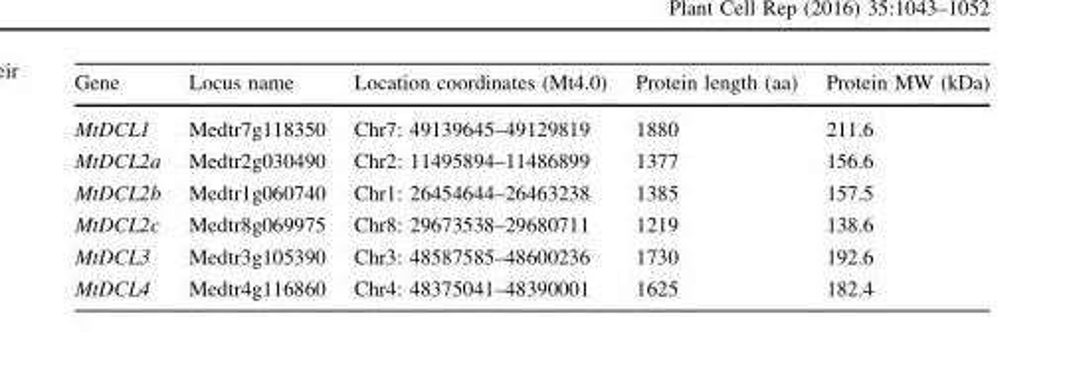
<table><thead><tr><td>Gene</td><td>Locus name</td><td>Location coordinates (Mt4.0)</td><td>Protein length (aa)</td><td>Protein MW (kDa)</td></tr></thead><tbody><tr><td>MtDCL1</td><td>Medtr7g118350</td><td>Chr7: 49139645–49129819</td><td>1880</td><td>211.6</td></tr><tr><td>MtDCL2a</td><td>Medtr2g030490</td><td>Chr2: 11495894–11486899</td><td>1377</td><td>156.6</td></tr><tr><td>MtDCL2b</td><td>Medtr1g060740</td><td>Chr1: 26454644–26463238</td><td>1385</td><td>157.5</td></tr><tr><td>MtDCL2c</td><td>Medtr8g069975</td><td>Chr8: 29673538–29680711</td><td>1219</td><td>138.6</td></tr><tr><td>MtDCL3</td><td>Medtr3g105390</td><td>Chr3: 48587585–48600236</td><td>1730</td><td>192.6</td></tr><tr><td>MtDCL4</td><td>Medtr4g116860</td><td>Chr4: 48375041–48390001</td><td>1625</td><td>182.4</td></tr></tbody></table>